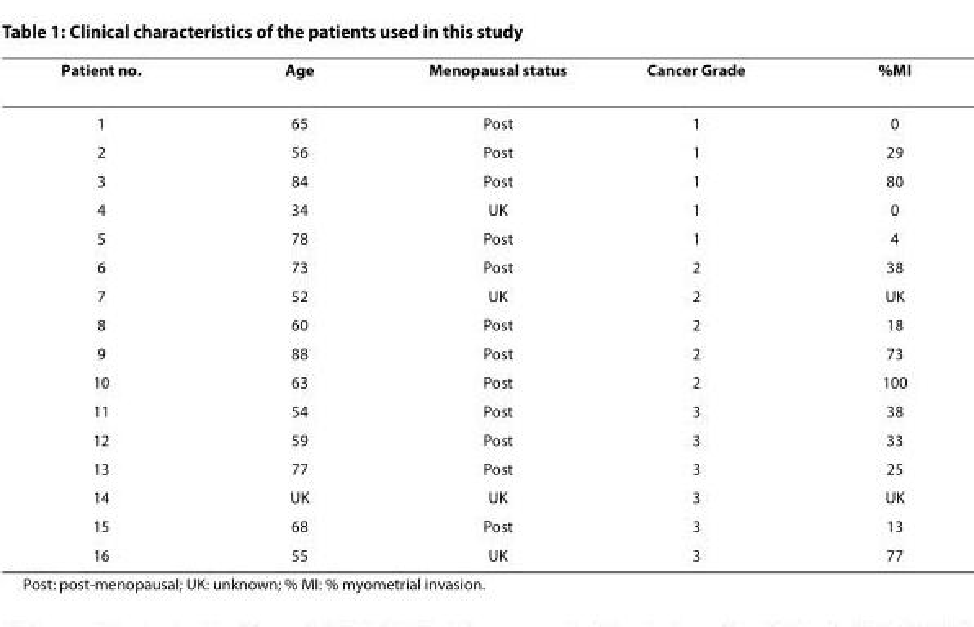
<table><thead><tr><td>Patient no.</td><td>Age</td><td>Menopausal status</td><td>Cancer Grade</td><td>%MI</td></tr></thead><tbody><tr><td>1</td><td>65</td><td>Post</td><td>1</td><td>0</td></tr><tr><td>2</td><td>56</td><td>Post</td><td>1</td><td>29</td></tr><tr><td>3</td><td>84</td><td>Post</td><td>1</td><td>80</td></tr><tr><td>4</td><td>34</td><td>UK</td><td>1</td><td>0</td></tr><tr><td>5</td><td>78</td><td>Post</td><td>1</td><td>4</td></tr><tr><td>6</td><td>73</td><td>Post</td><td>2</td><td>38</td></tr><tr><td>7</td><td>52</td><td>UK</td><td>2</td><td>UK</td></tr><tr><td>8</td><td>60</td><td>Post</td><td>2</td><td>18</td></tr><tr><td>9</td><td>88</td><td>Post</td><td>2</td><td>73</td></tr><tr><td>10</td><td>63</td><td>Post</td><td>2</td><td>100</td></tr><tr><td>11</td><td>54</td><td>Post</td><td>3</td><td>38</td></tr><tr><td>12</td><td>59</td><td>Post</td><td>3</td><td>33</td></tr><tr><td>13</td><td>77</td><td>Post</td><td>3</td><td>25</td></tr><tr><td>14</td><td>UK</td><td>UK</td><td>3</td><td>UK</td></tr><tr><td>15</td><td>68</td><td>Post</td><td>3</td><td>13</td></tr><tr><td>16</td><td>55</td><td>UK</td><td>3</td><td>77</td></tr></tbody></table>